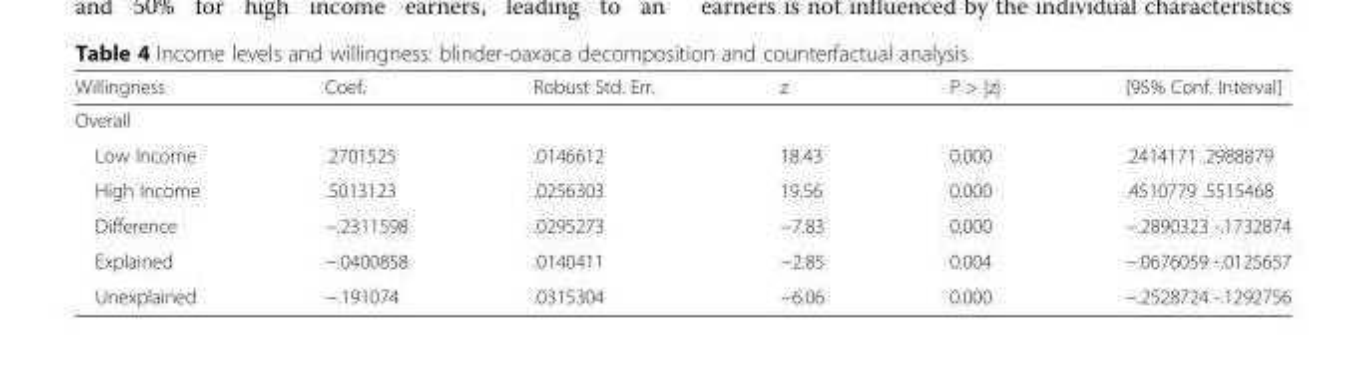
<table><thead><tr><td>Willingness</td><td>Coef.</td><td>Robust Std. Err.</td><td>z</td><td>P &gt; |z|</td><td>[95% Conf. Interval]</td></tr></thead><tbody><tr><td colspan="6">Overall</td></tr><tr><td>Low Income</td><td>.2701525</td><td>.0146612</td><td>18.43</td><td>0.000</td><td>.2414171 .2988879</td></tr><tr><td>High Income</td><td>.5013123</td><td>.0256303</td><td>19.56</td><td>0.000</td><td>.4510779 .5515468</td></tr><tr><td>Difference</td><td>−.2311598</td><td>.0295273</td><td>−7.83</td><td>0.000</td><td>−.2890323 -.1732874</td></tr><tr><td>Explained</td><td>−.0400858</td><td>.0140411</td><td>−2.85</td><td>0.004</td><td>−.0676059 -.0125657</td></tr><tr><td>Unexplained</td><td>−.191074</td><td>.0315304</td><td>−6.06</td><td>0.000</td><td>−.2528724 -.1292756</td></tr></tbody></table>